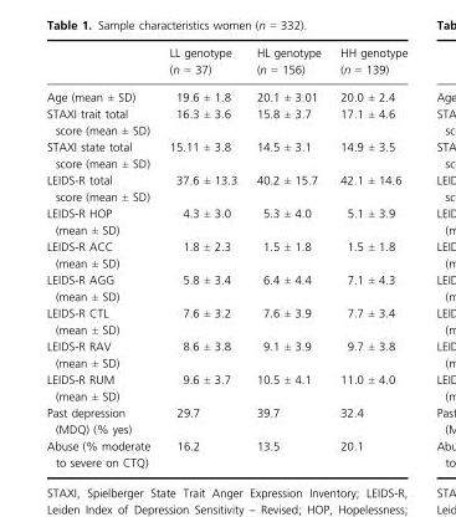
<table><thead><tr><td></td><td>LL genotype (n = 37)</td><td>HL genotype (n = 156)</td><td>HH genotype (n = 139)</td></tr></thead><tbody><tr><td>Age (mean ± SD)</td><td>19.6 ± 1.8</td><td>20.1 ± 3.01</td><td>20.0 ± 2.4</td></tr><tr><td>STAXI trait total score (mean ± SD)</td><td>16.3 ± 3.6</td><td>15.8 ± 3.7</td><td>17.1 ± 4.6</td></tr><tr><td>STAXI state total score (mean ± SD)</td><td>15.11 ± 3.8</td><td>14.5 ± 3.1</td><td>14.9 ± 3.5</td></tr><tr><td>LEIDS-R total score (mean ± SD)</td><td>37.6 ± 13.3</td><td>40.2 ± 15.7</td><td>42.1 ± 14.6</td></tr><tr><td>LEIDS-R HOP (mean ± SD)</td><td>4.3 ± 3.0</td><td>5.3 ± 4.0</td><td>5.1 ± 3.9</td></tr><tr><td>LEIDS-R ACC (mean ± SD)</td><td>1.8 ± 2.3</td><td>1.5 ± 1.8</td><td>1.5 ± 1.8</td></tr><tr><td>LEIDS-R AGG (mean ± SD)</td><td>5.8 ± 3.4</td><td>6.4 ± 4.4</td><td>7.1 ± 4.3</td></tr><tr><td>LEIDS-R CTL (mean ± SD)</td><td>7.6 ± 3.2</td><td>7.6 ± 3.9</td><td>7.7 ± 3.4</td></tr><tr><td>LEIDS-R RAV (mean ± SD)</td><td>8.6 ± 3.8</td><td>9.1 ± 3.9</td><td>9.7 ± 3.8</td></tr><tr><td>LEIDS-R RUM (mean ± SD)</td><td>9.6 ± 3.7</td><td>10.5 ± 4.1</td><td>11.0 ± 4.0</td></tr><tr><td>Past depression (MDQ) (% yes)</td><td>29.7</td><td>39.7</td><td>32.4</td></tr><tr><td>Abuse (% moderate to severe on CTQ)</td><td>16.2</td><td>13.5</td><td>20.1</td></tr></tbody></table>